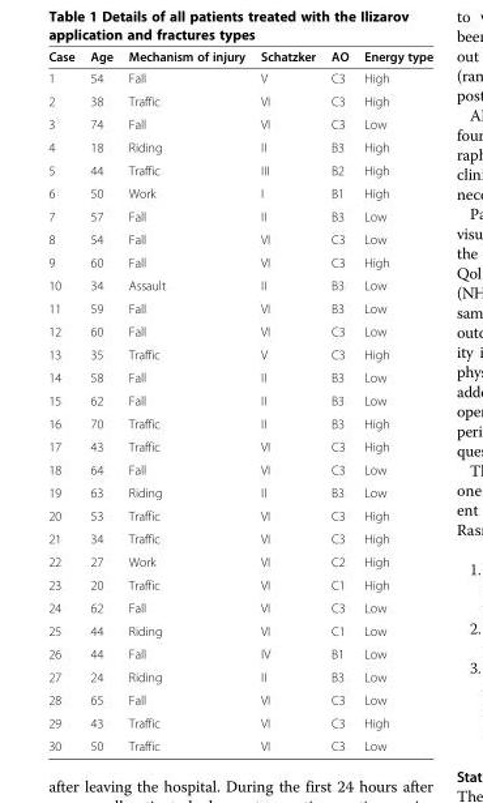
<table><thead><tr><td>Case</td><td>Age</td><td>Mechanism of injury</td><td>Schatzker</td><td>AO</td><td>Energy type</td></tr></thead><tbody><tr><td>1</td><td>54</td><td>Fall</td><td>V</td><td>C3</td><td>High</td></tr><tr><td>2</td><td>38</td><td>Traffic</td><td>VI</td><td>C3</td><td>High</td></tr><tr><td>3</td><td>74</td><td>Fall</td><td>VI</td><td>C3</td><td>Low</td></tr><tr><td>4</td><td>18</td><td>Riding</td><td>II</td><td>B3</td><td>High</td></tr><tr><td>5</td><td>44</td><td>Traffic</td><td>III</td><td>B2</td><td>High</td></tr><tr><td>6</td><td>50</td><td>Work</td><td>I</td><td>B1</td><td>High</td></tr><tr><td>7</td><td>57</td><td>Fall</td><td>II</td><td>B3</td><td>Low</td></tr><tr><td>8</td><td>54</td><td>Fall</td><td>VI</td><td>C3</td><td>Low</td></tr><tr><td>9</td><td>60</td><td>Fall</td><td>VI</td><td>C3</td><td>High</td></tr><tr><td>10</td><td>34</td><td>Assault</td><td>II</td><td>B3</td><td>Low</td></tr><tr><td>11</td><td>59</td><td>Fall</td><td>VI</td><td>B3</td><td>Low</td></tr><tr><td>12</td><td>60</td><td>Fall</td><td>VI</td><td>C3</td><td>Low</td></tr><tr><td>13</td><td>35</td><td>Traffic</td><td>V</td><td>C3</td><td>High</td></tr><tr><td>14</td><td>58</td><td>Fall</td><td>II</td><td>B3</td><td>Low</td></tr><tr><td>15</td><td>62</td><td>Fall</td><td>II</td><td>B3</td><td>Low</td></tr><tr><td>16</td><td>70</td><td>Traffic</td><td>II</td><td>B3</td><td>High</td></tr><tr><td>17</td><td>43</td><td>Traffic</td><td>VI</td><td>C3</td><td>High</td></tr><tr><td>18</td><td>64</td><td>Fall</td><td>VI</td><td>C3</td><td>Low</td></tr><tr><td>19</td><td>63</td><td>Riding</td><td>II</td><td>B3</td><td>Low</td></tr><tr><td>20</td><td>53</td><td>Traffic</td><td>VI</td><td>C3</td><td>High</td></tr><tr><td>21</td><td>34</td><td>Traffic</td><td>VI</td><td>C3</td><td>High</td></tr><tr><td>22</td><td>27</td><td>Work</td><td>VI</td><td>C2</td><td>High</td></tr><tr><td>23</td><td>20</td><td>Traffic</td><td>VI</td><td>C1</td><td>High</td></tr><tr><td>24</td><td>62</td><td>Fall</td><td>VI</td><td>C3</td><td>Low</td></tr><tr><td>25</td><td>44</td><td>Riding</td><td>VI</td><td>C1</td><td>Low</td></tr><tr><td>26</td><td>44</td><td>Fall</td><td>IV</td><td>B1</td><td>Low</td></tr><tr><td>27</td><td>24</td><td>Riding</td><td>II</td><td>B3</td><td>Low</td></tr><tr><td>28</td><td>65</td><td>Fall</td><td>VI</td><td>C3</td><td>Low</td></tr><tr><td>29</td><td>43</td><td>Traffic</td><td>VI</td><td>C3</td><td>High</td></tr><tr><td>30</td><td>50</td><td>Traffic</td><td>VI</td><td>C3</td><td>Low</td></tr></tbody></table>